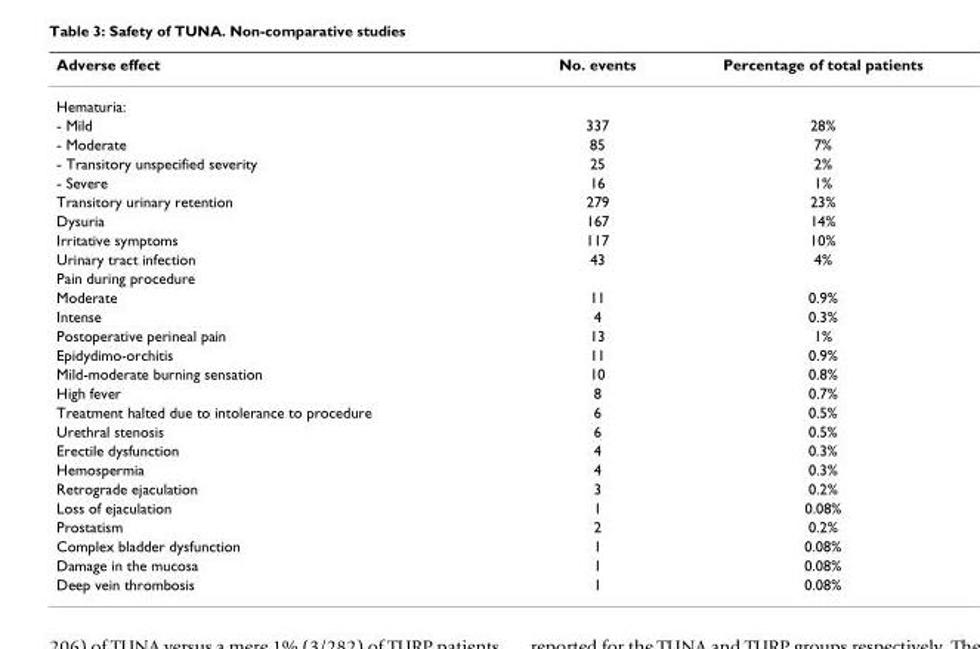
<table><thead><tr><td>Adverse effect</td><td>No. events</td><td>Percentage of total patients</td></tr></thead><tbody><tr><td colspan="3">Hematuria:</td></tr><tr><td>- Mild</td><td>337</td><td>28%</td></tr><tr><td>- Moderate</td><td>85</td><td>7%</td></tr><tr><td>- Transitory unspecified severity</td><td>25</td><td>2%</td></tr><tr><td>- Severe</td><td>16</td><td>1%</td></tr><tr><td>Transitory urinary retention</td><td>279</td><td>23%</td></tr><tr><td>Dysuria</td><td>167</td><td>14%</td></tr><tr><td>Irritative symptoms</td><td>117</td><td>10%</td></tr><tr><td>Urinary tract infection</td><td>43</td><td>4%</td></tr><tr><td colspan="3">Pain during procedure</td></tr><tr><td>Moderate</td><td>11</td><td>0.9%</td></tr><tr><td>Intense</td><td>4</td><td>0.3%</td></tr><tr><td>Postoperative perineal pain</td><td>13</td><td>1%</td></tr><tr><td>Epidydimo-orchitis</td><td>11</td><td>0.9%</td></tr><tr><td>Mild-moderate burning sensation</td><td>10</td><td>0.8%</td></tr><tr><td>High fever</td><td>8</td><td>0.7%</td></tr><tr><td>Treatment halted due to intolerance to procedure</td><td>6</td><td>0.5%</td></tr><tr><td>Urethral stenosis</td><td>6</td><td>0.5%</td></tr><tr><td>Erectile dysfunction</td><td>4</td><td>0.3%</td></tr><tr><td>Hemospermia</td><td>4</td><td>0.3%</td></tr><tr><td>Retrograde ejaculation</td><td>3</td><td>0.2%</td></tr><tr><td>Loss of ejaculation</td><td>1</td><td>0.08%</td></tr><tr><td>Prostatism</td><td>2</td><td>0.2%</td></tr><tr><td>Complex bladder dysfunction</td><td>1</td><td>0.08%</td></tr><tr><td>Damage in the mucosa</td><td>1</td><td>0.08%</td></tr><tr><td>Deep vein thrombosis</td><td>1</td><td>0.08%</td></tr></tbody></table>